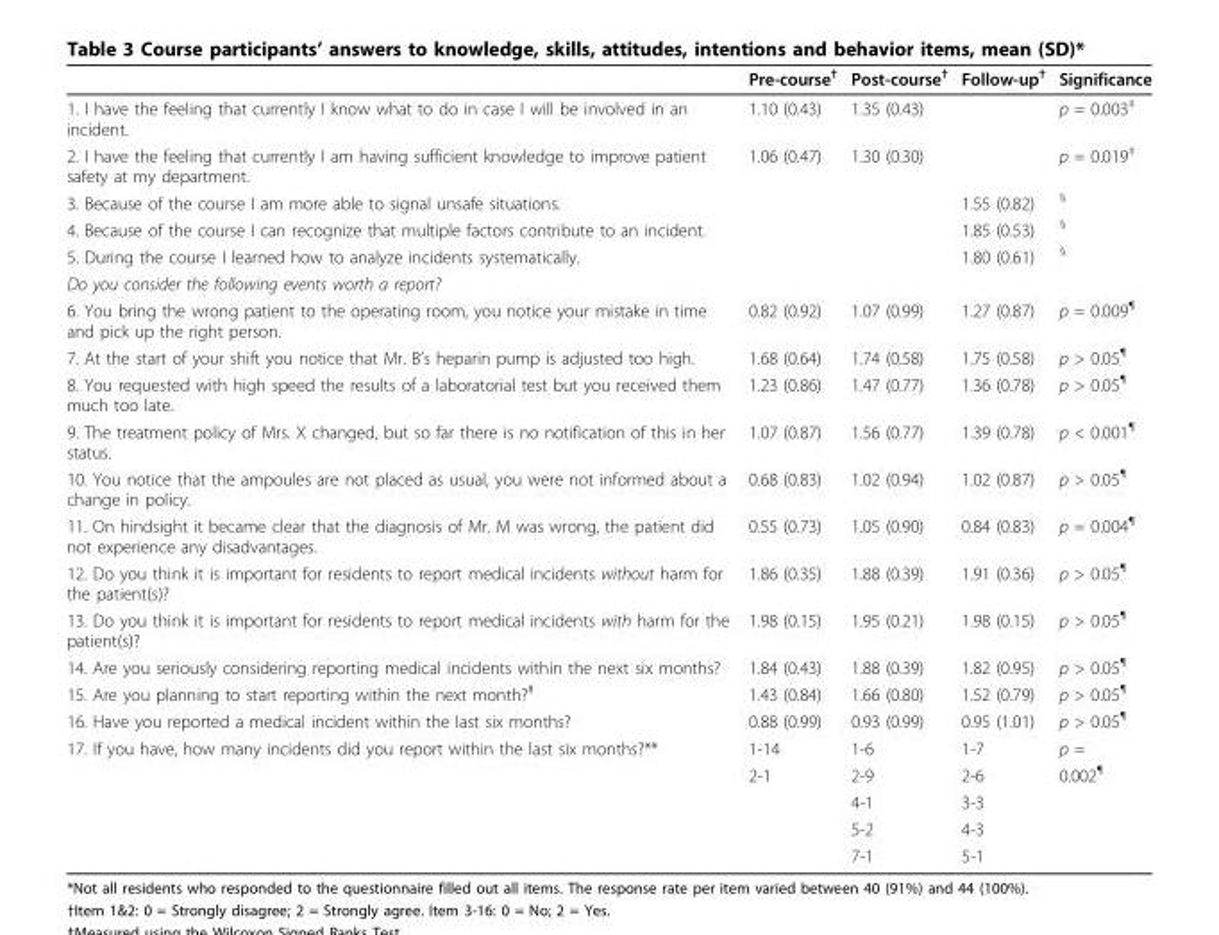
<table><thead><tr><td></td><td>Pre-course<sup>†</sup></td><td>Post-course<sup>†</sup></td><td>Follow-up<sup>†</sup></td><td>Significance</td></tr></thead><tbody><tr><td>1. I have the feeling that currently I know what to do in case I will be involved in an incident.</td><td>1.10 (0.43)</td><td>1.35 (0.43)</td><td></td><td>p = 0.003<sup>‡</sup></td></tr><tr><td>2. I have the feeling that currently I am having sufficient knowledge to improve patient safety at my department.</td><td>1.06 (0.47)</td><td>1.30 (0.30)</td><td></td><td>p = 0.019<sup>‡</sup></td></tr><tr><td>3. Because of the course I am more able to signal unsafe situations.</td><td></td><td></td><td>1.55 (0.82)</td><td><sup>§</sup></td></tr><tr><td>4. Because of the course I can recognize that multiple factors contribute to an incident.</td><td></td><td></td><td>1.85 (0.53)</td><td><sup>§</sup></td></tr><tr><td>5. During the course I learned how to analyze incidents systematically.</td><td></td><td></td><td>1.80 (0.61)</td><td><sup>§</sup></td></tr><tr><td colspan="5">Do you consider the following events worth a report?</td></tr><tr><td>6. You bring the wrong patient to the operating room, you notice your mistake in time and pick up the right person.</td><td>0.82 (0.92)</td><td>1.07 (0.99)</td><td>1.27 (0.87)</td><td>p = 0.009<sup>¶</sup></td></tr><tr><td>7. At the start of your shift you notice that Mr. B’s heparin pump is adjusted too high.</td><td>1.68 (0.64)</td><td>1.74 (0.58)</td><td>1.75 (0.58)</td><td>p &gt; 0.05<sup>¶</sup></td></tr><tr><td>8. You requested with high speed the results of a laboratorial test but you received them much too late.</td><td>1.23 (0.86)</td><td>1.47 (0.77)</td><td>1.36 (0.78)</td><td>p &gt; 0.05<sup>¶</sup></td></tr><tr><td>9. The treatment policy of Mrs. X changed, but so far there is no notification of this in her status.</td><td>1.07 (0.87)</td><td>1.56 (0.77)</td><td>1.39 (0.78)</td><td>p &lt; 0.001<sup>¶</sup></td></tr><tr><td>10. You notice that the ampoules are not placed as usual, you were not informed about a change in policy.</td><td>0.68 (0.83)</td><td>1.02 (0.94)</td><td>1.02 (0.87)</td><td>p &gt; 0.05<sup>¶</sup></td></tr><tr><td>11. On hindsight it became clear that the diagnosis of Mr. M was wrong, the patient did not experience any disadvantages.</td><td>0.55 (0.73)</td><td>1.05 (0.90)</td><td>0.84 (0.83)</td><td>p = 0.004<sup>¶</sup></td></tr><tr><td>12. Do you think it is important for residents to report medical incidents without harm for the patient(s)?</td><td>1.86 (0.35)</td><td>1.88 (0.39)</td><td>1.91 (0.36)</td><td>p &gt; 0.05<sup>¶</sup></td></tr><tr><td>13. Do you think it is important for residents to report medical incidents with harm for the patient(s)?</td><td>1.98 (0.15)</td><td>1.95 (0.21)</td><td>1.98 (0.15)</td><td>p &gt; 0.05<sup>¶</sup></td></tr><tr><td>14. Are you seriously considering reporting medical incidents within the next six months?</td><td>1.84 (0.43)</td><td>1.88 (0.39)</td><td>1.82 (0.95)</td><td>p &gt; 0.05<sup>¶</sup></td></tr><tr><td>15. Are you planning to start reporting within the next month?<sup>#</sup></td><td>1.43 (0.84)</td><td>1.66 (0.80)</td><td>1.52 (0.79)</td><td>p &gt; 0.05<sup>¶</sup></td></tr><tr><td>16. Have you reported a medical incident within the last six months?</td><td>0.88 (0.99)</td><td>0.93 (0.99)</td><td>0.95 (1.01)</td><td>p &gt; 0.05<sup>¶</sup></td></tr><tr><td rowspan="5">17. If you have, how many incidents did you report within the last six months?**</td><td>1-14</td><td>1-6</td><td>1-7</td><td>p =</td></tr><tr><td>2-1</td><td>2-9</td><td>2-6</td><td>0.002<sup>¶</sup></td></tr><tr><td></td><td>4-1</td><td>3-3</td><td></td></tr><tr><td></td><td>5-2</td><td>4-3</td><td></td></tr><tr><td></td><td>7-1</td><td>5-1</td><td></td></tr></tbody></table>